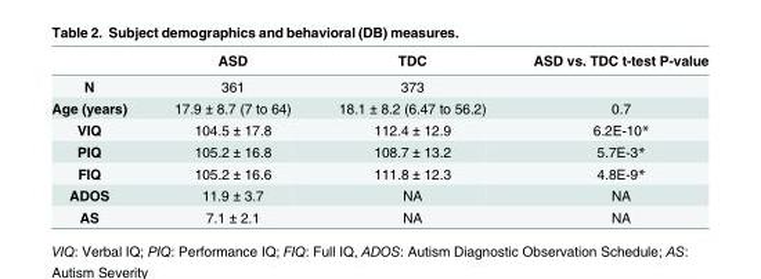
<table><thead><tr><td></td><td>ASD</td><td>TDC</td><td>ASD vs. TDC t-test P-value</td></tr></thead><tbody><tr><td>N</td><td>361</td><td>373</td><td></td></tr><tr><td>Age (years)</td><td>17.9 ± 8.7 (7 to 64)</td><td>18.1 ± 8.2 (6.47 to 56.2)</td><td>0.7</td></tr><tr><td>VIQ</td><td>104.5 ± 17.8</td><td>112.4 ± 12.9</td><td>6.2E-10*</td></tr><tr><td>PIQ</td><td>105.2 ± 16.8</td><td>108.7 ± 13.2</td><td>5.7E-3*</td></tr><tr><td>FIQ</td><td>105.2 ± 16.6</td><td>111.8 ± 12.3</td><td>4.8E-9*</td></tr><tr><td>ADOS</td><td>11.9 ± 3.7</td><td>NA</td><td>NA</td></tr><tr><td>AS</td><td>7.1 ± 2.1</td><td>NA</td><td>NA</td></tr></tbody></table>